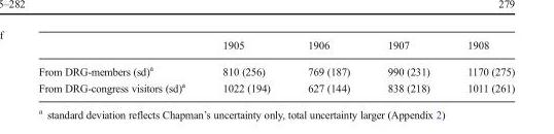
<table><thead><tr><td></td><td>1905</td><td>1906</td><td>1907</td><td>1908</td></tr></thead><tbody><tr><td>From DRG-members (sd)<sup>a</sup></td><td>810 (256)</td><td>769 (187)</td><td>990 (231)</td><td>1170 (275)</td></tr><tr><td>From DRG-congress visitors (sd)<sup>a</sup></td><td>1022 (194)</td><td>627 (144)</td><td>838 (218)</td><td>1011 (261)</td></tr></tbody></table>